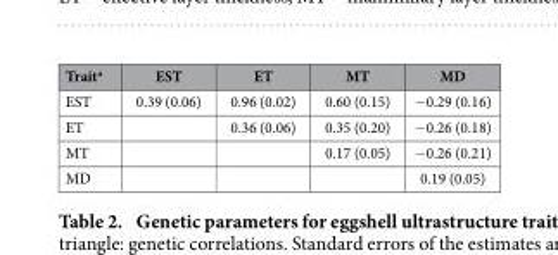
<table><thead><tr><td>Trait<sup>a</sup></td><td>EST</td><td>ET</td><td>MT</td><td>MD</td></tr></thead><tbody><tr><td>EST</td><td>0.39 (0.06)</td><td>0.96 (0.02)</td><td>0.60 (0.15)</td><td>− 0.29 (0.16)</td></tr><tr><td>ET</td><td></td><td>0.36 (0.06)</td><td>0.35 (0.20)</td><td>− 0.26 (0.18)</td></tr><tr><td>MT</td><td></td><td></td><td>0.17 (0.05)</td><td>− 0.26 (0.21)</td></tr><tr><td>MD</td><td></td><td></td><td></td><td>0.19 (0.05)</td></tr></tbody></table>